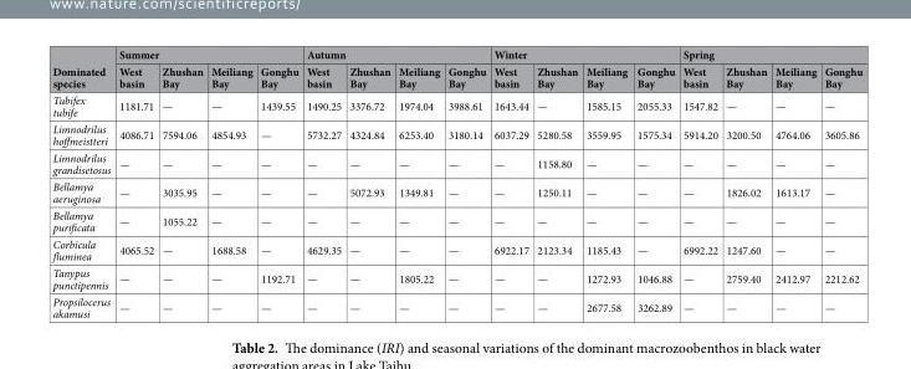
<table><thead><tr><td rowspan="2">Dominated species</td><td colspan="4">Summer</td><td colspan="4">Autumn</td><td colspan="4">Winter</td><td colspan="4">Spring</td></tr><tr><td>West basin</td><td>Zhushan Bay</td><td>Meiliang Bay</td><td>Gonghu Bay</td><td>West basin</td><td>Zhushan Bay</td><td>Meiliang Bay</td><td>Gonghu Bay</td><td>West basin</td><td>Zhushan Bay</td><td>Meiliang Bay</td><td>Gonghu Bay</td><td>West basin</td><td>Zhushan Bay</td><td>Meiliang Bay</td><td>Gonghu Bay</td></tr></thead><tbody><tr><td>Tubifex tubife</td><td>1181.71</td><td>—</td><td>—</td><td>1439.55</td><td>1490.25</td><td>3376.72</td><td>1974.04</td><td>3988.61</td><td>1643.44</td><td>—</td><td>1585.15</td><td>2055.33</td><td>1547.82</td><td>—</td><td>—</td><td>—</td></tr><tr><td>Limnodrilus hoffmeistteri</td><td>4086.71</td><td>7594.06</td><td>4854.93</td><td>—</td><td>5732.27</td><td>4324.84</td><td>6253.40</td><td>3180.14</td><td>6037.29</td><td>5280.58</td><td>3559.95</td><td>1575.34</td><td>5914.20</td><td>3200.50</td><td>4764.06</td><td>3605.86</td></tr><tr><td>Limnodrilus grandisetosus</td><td>—</td><td>—</td><td>—</td><td>—</td><td>—</td><td>—</td><td>—</td><td>—</td><td>—</td><td>1158.80</td><td>—</td><td>—</td><td>—</td><td>—</td><td>—</td><td>—</td></tr><tr><td>Bellamya aeruginosa</td><td>—</td><td>3035.95</td><td>—</td><td>—</td><td>—</td><td>5072.93</td><td>1349.81</td><td>—</td><td>—</td><td>1250.11</td><td>—</td><td>—</td><td>—</td><td>1826.02</td><td>1613.17</td><td>—</td></tr><tr><td>Bellamya purificata</td><td>—</td><td>1055.22</td><td>—</td><td>—</td><td>—</td><td>—</td><td>—</td><td>—</td><td>—</td><td>—</td><td>—</td><td>—</td><td>—</td><td>—</td><td>—</td><td>—</td></tr><tr><td>Corbicula fluminea</td><td>4065.52</td><td>—</td><td>1688.58</td><td>—</td><td>4629.35</td><td>—</td><td>—</td><td>—</td><td>6922.17</td><td>2123.34</td><td>1185.43</td><td>—</td><td>6992.22</td><td>1247.60</td><td>—</td><td>—</td></tr><tr><td>Tanypus punctipennis</td><td>—</td><td>—</td><td>—</td><td>1192.71</td><td>—</td><td>—</td><td>1805.22</td><td>—</td><td>—</td><td>—</td><td>1272.93</td><td>1046.88</td><td>—</td><td>2759.40</td><td>2412.97</td><td>2212.62</td></tr><tr><td>Propsilocerus akamusi</td><td>—</td><td>—</td><td>—</td><td>—</td><td>—</td><td>—</td><td>—</td><td>—</td><td>—</td><td>—</td><td>2677.58</td><td>3262.89</td><td>—</td><td>—</td><td>—</td><td>—</td></tr></tbody></table>